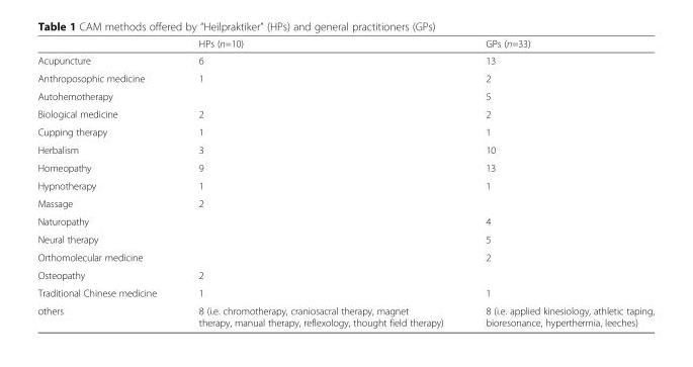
<table><thead><tr><td></td><td>HPs (n=10)</td><td>GPs (n=33)</td></tr></thead><tbody><tr><td>Acupuncture</td><td>6</td><td>13</td></tr><tr><td>Anthroposophic medicine</td><td>1</td><td>2</td></tr><tr><td>Autohemotherapy</td><td></td><td>5</td></tr><tr><td>Biological medicine</td><td>2</td><td>2</td></tr><tr><td>Cupping therapy</td><td>1</td><td>1</td></tr><tr><td>Herbalism</td><td>3</td><td>10</td></tr><tr><td>Homeopathy</td><td>9</td><td>13</td></tr><tr><td>Hypnotherapy</td><td>1</td><td>1</td></tr><tr><td>Massage</td><td>2</td><td></td></tr><tr><td>Naturopathy</td><td></td><td>4</td></tr><tr><td>Neural therapy</td><td></td><td>5</td></tr><tr><td>Orthomolecular medicine</td><td></td><td>2</td></tr><tr><td>Osteopathy</td><td>2</td><td></td></tr><tr><td>Traditional Chinese medicine</td><td>1</td><td>1</td></tr><tr><td>others</td><td>8 (i.e. chromotherapy, craniosacral therapy, magnet therapy, manual therapy, reflexology, thought field therapy)</td><td>8 (i.e. applied kinesiology, athletic taping, bioresonance, hyperthermia, leeches)</td></tr></tbody></table>